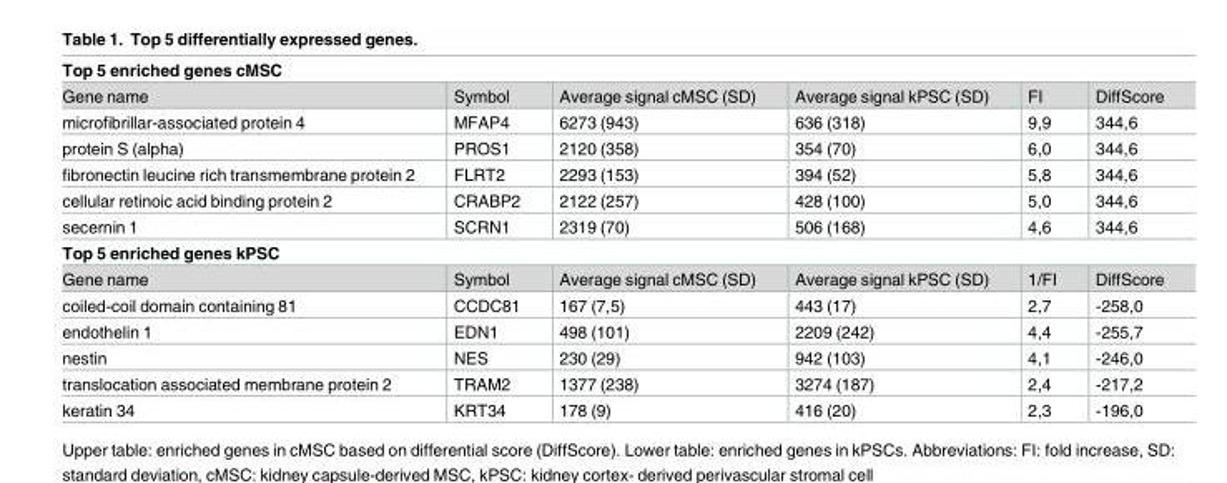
<table><tbody><tr><td colspan="6">Top 5 enriched genes cMSC</td></tr><tr><td>Gene name</td><td>Symbol</td><td>Average signal cMSC (SD)</td><td>Average signal kPSC (SD)</td><td>FI</td><td>DiffScore</td></tr><tr><td>microfibrillar-associated protein 4</td><td>MFAP4</td><td>6273 (943)</td><td>636 (318)</td><td>9,9</td><td>344,6</td></tr><tr><td>protein S (alpha)</td><td>PROS1</td><td>2120 (358)</td><td>354 (70)</td><td>6,0</td><td>344,6</td></tr><tr><td>fibronectin leucine rich transmembrane protein 2</td><td>FLRT2</td><td>2293 (153)</td><td>394 (52)</td><td>5,8</td><td>344,6</td></tr><tr><td>cellular retinoic acid binding protein 2</td><td>CRABP2</td><td>2122 (257)</td><td>428 (100)</td><td>5,0</td><td>344,6</td></tr><tr><td>secernin 1</td><td>SCRN1</td><td>2319 (70)</td><td>506 (168)</td><td>4,6</td><td>344,6</td></tr><tr><td colspan="6">Top 5 enriched genes kPSC</td></tr><tr><td>Gene name</td><td>Symbol</td><td>Average signal cMSC (SD)</td><td>Average signal kPSC (SD)</td><td>1/FI</td><td>DiffScore</td></tr><tr><td>coiled-coil domain containing 81</td><td>CCDC81</td><td>167 (7,5)</td><td>443 (17)</td><td>2,7</td><td>-258,0</td></tr><tr><td>endothelin 1</td><td>EDN1</td><td>498 (101)</td><td>2209 (242)</td><td>4,4</td><td>-255,7</td></tr><tr><td>nestin</td><td>NES</td><td>230 (29)</td><td>942 (103)</td><td>4,1</td><td>-246,0</td></tr><tr><td>translocation associated membrane protein 2</td><td>TRAM2</td><td>1377 (238)</td><td>3274 (187)</td><td>2,4</td><td>-217,2</td></tr><tr><td>keratin 34</td><td>KRT34</td><td>178 (9)</td><td>416 (20)</td><td>2,3</td><td>-196,0</td></tr></tbody></table>